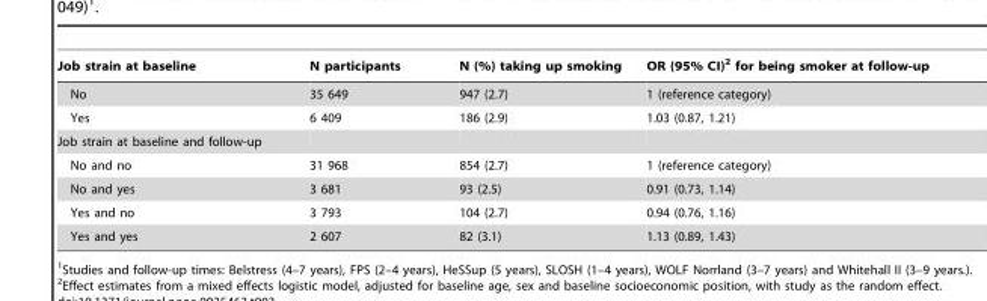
<table><thead><tr><td>Job strain at baseline</td><td>N participants</td><td>N (%) taking up smoking</td><td>OR (95% CI)<sup>2</sup> for being smoker at follow-up</td></tr></thead><tbody><tr><td>No</td><td>35 649</td><td>947 (2.7)</td><td>1 (reference category)</td></tr><tr><td>Yes</td><td>6 409</td><td>186 (2.9)</td><td>1.03 (0.87, 1.21)</td></tr><tr><td colspan="4">Job strain at baseline and follow-up</td></tr><tr><td>No and no</td><td>31 968</td><td>854 (2.7)</td><td>1 (reference category)</td></tr><tr><td>No and yes</td><td>3 681</td><td>93 (2.5)</td><td>0.91 (0.73, 1.14)</td></tr><tr><td>Yes and no</td><td>3 793</td><td>104 (2.7)</td><td>0.94 (0.76, 1.16)</td></tr><tr><td>Yes and yes</td><td>2 607</td><td>82 (3.1)</td><td>1.13 (0.89, 1.43)</td></tr></tbody></table>